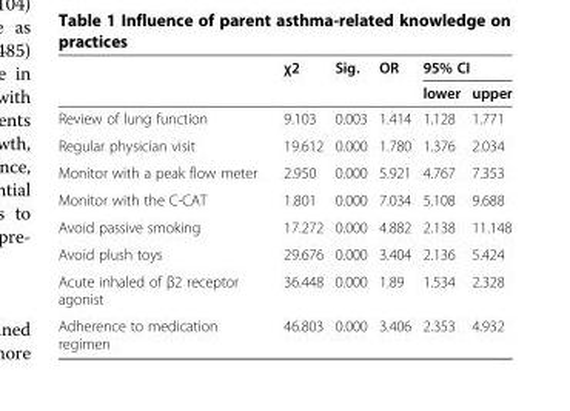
<table><thead><tr><td rowspan="2"></td><td rowspan="2">χ2</td><td rowspan="2">Sig.</td><td rowspan="2">OR</td><td colspan="2">95% CI</td></tr><tr><td>lower</td><td>upper</td></tr></thead><tbody><tr><td>Review of lung function</td><td>9.103</td><td>0.003</td><td>1.414</td><td>1.128</td><td>1.771</td></tr><tr><td>Regular physician visit</td><td>19.612</td><td>0.000</td><td>1.780</td><td>1.376</td><td>2.034</td></tr><tr><td>Monitor with a peak flow meter</td><td>2.950</td><td>0.000</td><td>5.921</td><td>4.767</td><td>7.353</td></tr><tr><td>Monitor with the C-CAT</td><td>1.801</td><td>0.000</td><td>7.034</td><td>5.108</td><td>9.688</td></tr><tr><td>Avoid passive smoking</td><td>17.272</td><td>0.000</td><td>4.882</td><td>2.138</td><td>11.148</td></tr><tr><td>Avoid plush toys</td><td>29.676</td><td>0.000</td><td>3.404</td><td>2.136</td><td>5.424</td></tr><tr><td>Acute inhaled of β2 receptor agonist</td><td>36.448</td><td>0.000</td><td>1.89</td><td>1.534</td><td>2.328</td></tr><tr><td>Adherence to medication regimen</td><td>46.803</td><td>0.000</td><td>3.406</td><td>2.353</td><td>4.932</td></tr></tbody></table>